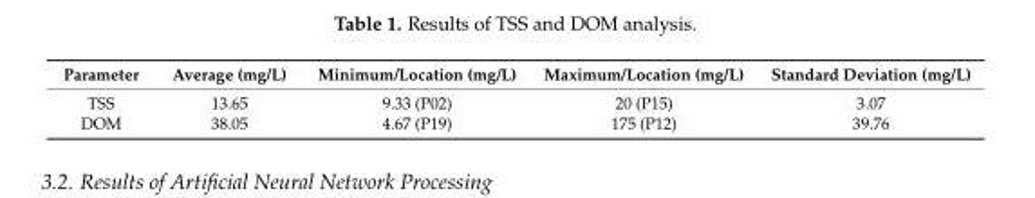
<table><thead><tr><td>Parameter</td><td>Average (mg/L)</td><td>Minimum/Location (mg/L)</td><td>Maximum/Location (mg/L)</td><td>Standard Deviation (mg/L)</td></tr></thead><tbody><tr><td>TSS</td><td>13.65</td><td>9.33 (P02)</td><td>20 (P15)</td><td>3.07</td></tr><tr><td>DOM</td><td>38.05</td><td>4.67 (P19)</td><td>175 (P12)</td><td>39.76</td></tr></tbody></table>